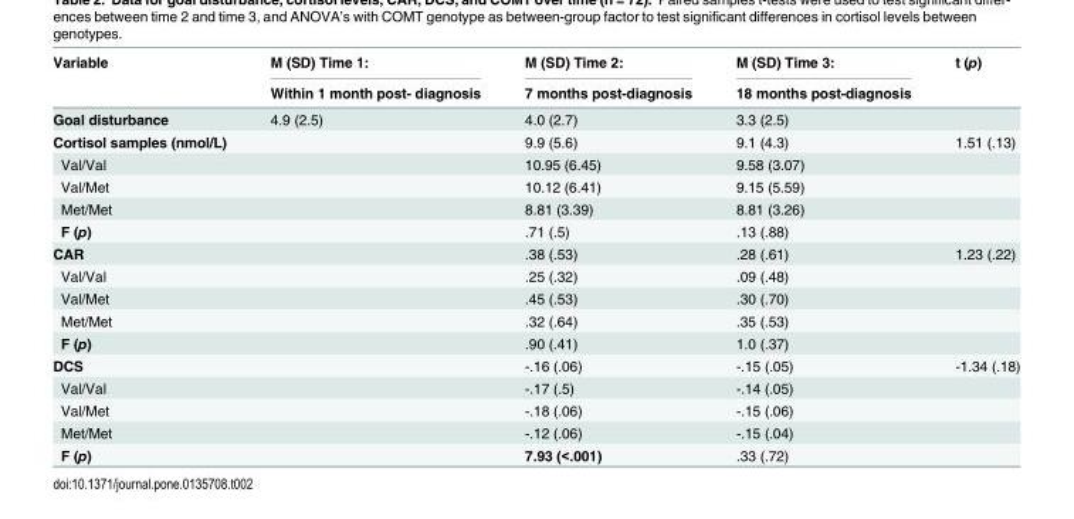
<table><thead><tr><td rowspan="2">Variable</td><td rowspan="2">M (SD) Time 1: Within 1 month post- diagnosis</td><td rowspan="2">M (SD) Time 2: 7 months post-diagnosis</td><td rowspan="2">M (SD) Time 3: 18 months post-diagnosis</td><td rowspan="2">t (p)</td></tr><tr></tr></thead><tbody><tr><td>Goal disturbance</td><td>4.9 (2.5)</td><td>4.0 (2.7)</td><td>3.3 (2.5)</td><td></td></tr><tr><td>Cortisol samples (nmol/L)</td><td></td><td>9.9 (5.6)</td><td>9.1 (4.3)</td><td>1.51 (.13)</td></tr><tr><td>Val/Val</td><td></td><td>10.95 (6.45)</td><td>9.58 (3.07)</td><td></td></tr><tr><td>Val/Met</td><td></td><td>10.12 (6.41)</td><td>9.15 (5.59)</td><td></td></tr><tr><td>Met/Met</td><td></td><td>8.81 (3.39)</td><td>8.81 (3.26)</td><td></td></tr><tr><td>F (p)</td><td></td><td>.71 (.5)</td><td>.13 (.88)</td><td></td></tr><tr><td>CAR</td><td></td><td>.38 (.53)</td><td>.28 (.61)</td><td>1.23 (.22)</td></tr><tr><td>Val/Val</td><td></td><td>.25 (.32)</td><td>.09 (.48)</td><td></td></tr><tr><td>Val/Met</td><td></td><td>.45 (.53)</td><td>.30 (.70)</td><td></td></tr><tr><td>Met/Met</td><td></td><td>.32 (.64)</td><td>.35 (.53)</td><td></td></tr><tr><td>F (p)</td><td></td><td>.90 (.41)</td><td>1.0 (.37)</td><td></td></tr><tr><td>DCS</td><td></td><td>-.16 (.06)</td><td>-.15 (.05)</td><td>-1.34 (.18)</td></tr><tr><td>Val/Val</td><td></td><td>-.17 (.5)</td><td>-.14 (.05)</td><td></td></tr><tr><td>Val/Met</td><td></td><td>-.18 (.06)</td><td>-.15 (.06)</td><td></td></tr><tr><td>Met/Met</td><td></td><td>-.12 (.06)</td><td>-.15 (.04)</td><td></td></tr><tr><td>F (p)</td><td></td><td>7.93 (&lt;.001)</td><td>.33 (.72)</td><td></td></tr></tbody></table>